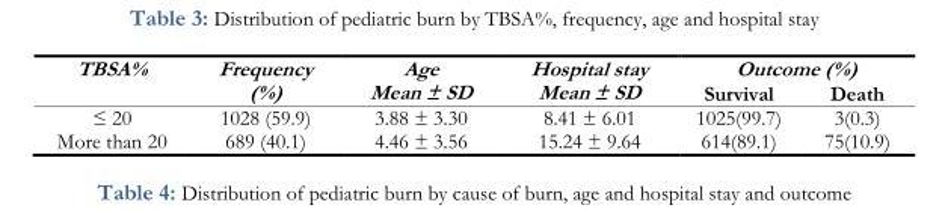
<table><thead><tr><td rowspan="2">TBSA%</td><td rowspan="2">Frequency (%)</td><td rowspan="2">Age Mean ± SD</td><td rowspan="2">Hospital stay Mean ± SD</td><td colspan="2">Outcome (%)</td></tr><tr><td>Survival</td><td>Death</td></tr></thead><tbody><tr><td>≤ 20</td><td>1028 (59.9)</td><td>3.88 ± 3.30</td><td>8.41 ± 6.01</td><td>1025(99.7)</td><td>3(0.3)</td></tr><tr><td>More than 20</td><td>689 (40.1)</td><td>4.46 ± 3.56</td><td>15.24 ± 9.64</td><td>614(89.1)</td><td>75(10.9)</td></tr></tbody></table>